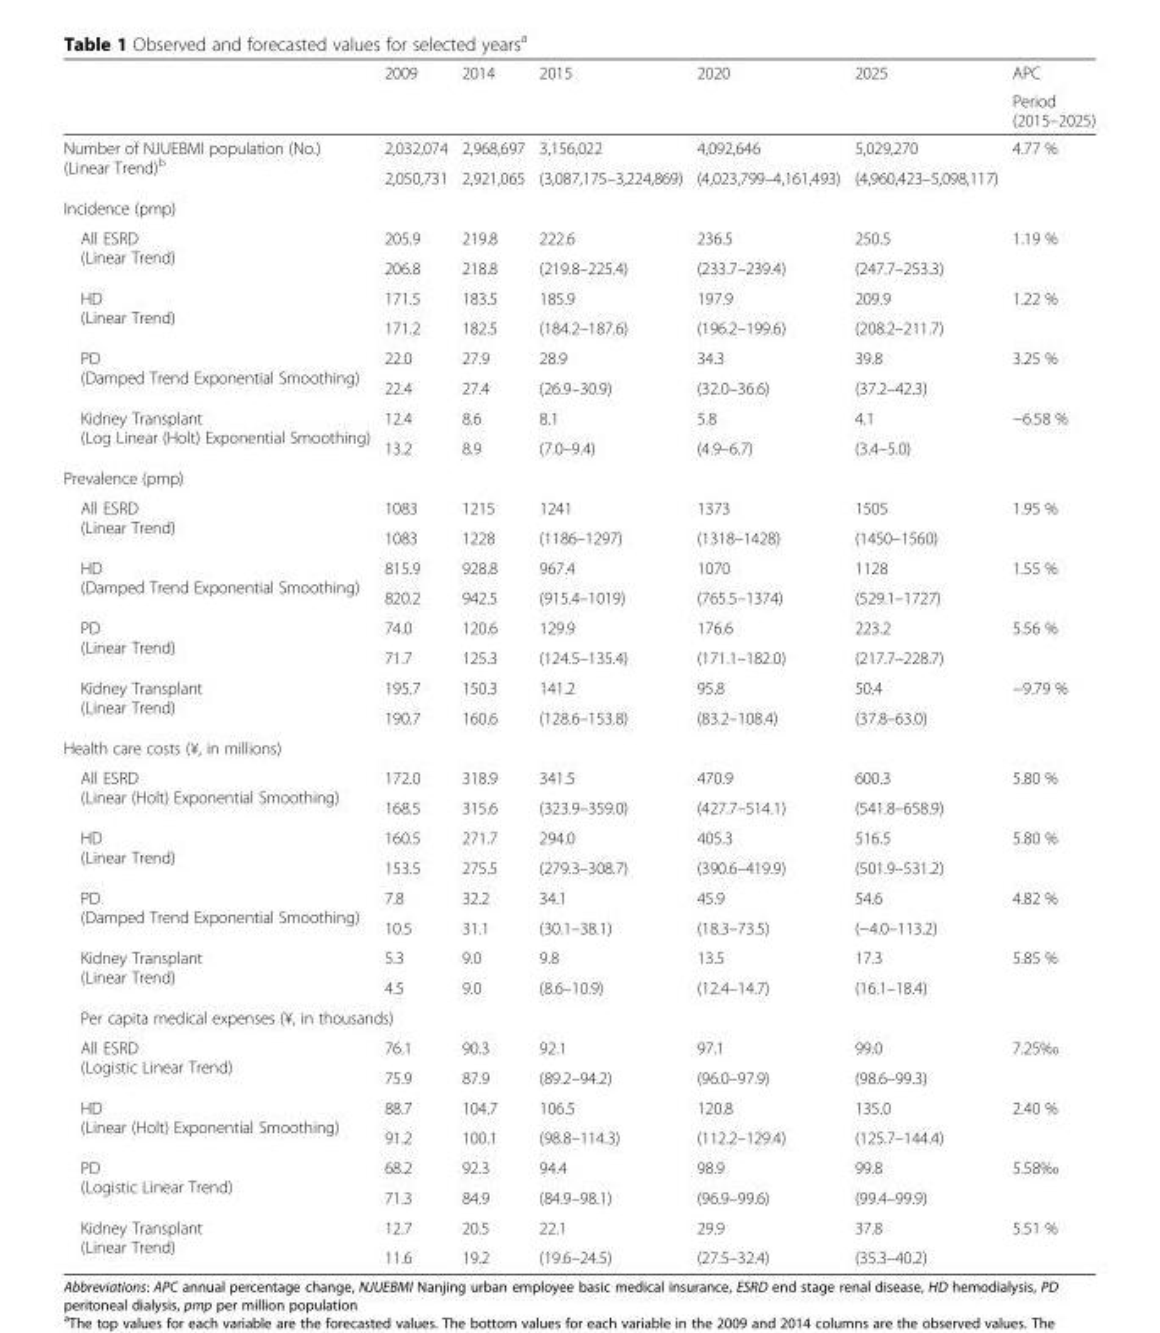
<table><thead><tr><td rowspan="2"></td><td rowspan="2">2009</td><td rowspan="2">2014</td><td rowspan="2">2015</td><td rowspan="2">2020</td><td rowspan="2">2025</td><td rowspan="2">APC Period (2015–2025)</td></tr><tr></tr></thead><tbody><tr><td rowspan="2">Number of NJUEBMI population (No.) (Linear Trend)<sup>b</sup></td><td>2,032,074</td><td>2,968,697</td><td>3,156,022</td><td>4,092,646</td><td>5,029,270</td><td>4.77 %</td></tr><tr><td>2,050,731</td><td>2,921,065</td><td>(3,087,175–3,224,869)</td><td>(4,023,799–4,161,493)</td><td>(4,960,423–5,098,117)</td><td></td></tr><tr><td colspan="7">Incidence (pmp)</td></tr><tr><td rowspan="2">All ESRD (Linear Trend)</td><td>205.9</td><td>219.8</td><td>222.6</td><td>236.5</td><td>250.5</td><td>1.19 %</td></tr><tr><td>206.8</td><td>218.8</td><td>(219.8–225.4)</td><td>(233.7–239.4)</td><td>(247.7–253.3)</td><td></td></tr><tr><td rowspan="2">HD (Linear Trend)</td><td>171.5</td><td>183.5</td><td>185.9</td><td>197.9</td><td>209.9</td><td>1.22 %</td></tr><tr><td>171.2</td><td>182.5</td><td>(184.2–187.6)</td><td>(196.2–199.6)</td><td>(208.2–211.7)</td><td></td></tr><tr><td rowspan="2">PD (Damped Trend Exponential Smoothing)</td><td>22.0</td><td>27.9</td><td>28.9</td><td>34.3</td><td>39.8</td><td>3.25 %</td></tr><tr><td>22.4</td><td>27.4</td><td>(26.9–30.9)</td><td>(32.0–36.6)</td><td>(37.2–42.3)</td><td></td></tr><tr><td rowspan="2">Kidney Transplant (Log Linear (Holt) Exponential Smoothing)</td><td>12.4</td><td>8.6</td><td>8.1</td><td>5.8</td><td>4.1</td><td>−6.58 %</td></tr><tr><td>13.2</td><td>8.9</td><td>(7.0–9.4)</td><td>(4.9–6.7)</td><td>(3.4–5.0)</td><td></td></tr><tr><td colspan="7">Prevalence (pmp)</td></tr><tr><td rowspan="2">All ESRD (Linear Trend)</td><td>1083</td><td>1215</td><td>1241</td><td>1373</td><td>1505</td><td>1.95 %</td></tr><tr><td>1083</td><td>1228</td><td>(1186–1297)</td><td>(1318–1428)</td><td>(1450–1560)</td><td></td></tr><tr><td rowspan="2">HD (Damped Trend Exponential Smoothing)</td><td>815.9</td><td>928.8</td><td>967.4</td><td>1070</td><td>1128</td><td>1.55 %</td></tr><tr><td>820.2</td><td>942.5</td><td>(915.4–1019)</td><td>(765.5–1374)</td><td>(529.1–1727)</td><td></td></tr><tr><td rowspan="2">PD (Linear Trend)</td><td>74.0</td><td>120.6</td><td>129.9</td><td>176.6</td><td>223.2</td><td>5.56 %</td></tr><tr><td>71.7</td><td>125.3</td><td>(124.5–135.4)</td><td>(171.1–182.0)</td><td>(217.7–228.7)</td><td></td></tr><tr><td rowspan="2">Kidney Transplant (Linear Trend)</td><td>195.7</td><td>150.3</td><td>141.2</td><td>95.8</td><td>50.4</td><td>−9.79 %</td></tr><tr><td>190.7</td><td>160.6</td><td>(128.6–153.8)</td><td>(83.2–108.4)</td><td>(37.8–63.0)</td><td></td></tr><tr><td colspan="7">Health care costs (¥, in millions)</td></tr><tr><td rowspan="2">All ESRD (Linear (Holt) Exponential Smoothing)</td><td>172.0</td><td>318.9</td><td>341.5</td><td>470.9</td><td>600.3</td><td>5.80 %</td></tr><tr><td>168.5</td><td>315.6</td><td>(323.9–359.0)</td><td>(427.7–514.1)</td><td>(541.8–658.9)</td><td></td></tr><tr><td rowspan="2">HD (Linear Trend)</td><td>160.5</td><td>271.7</td><td>294.0</td><td>405.3</td><td>516.5</td><td>5.80 %</td></tr><tr><td>153.5</td><td>275.5</td><td>(279.3–308.7)</td><td>(390.6–419.9)</td><td>(501.9–531.2)</td><td></td></tr><tr><td rowspan="2">PD (Damped Trend Exponential Smoothing)</td><td>7.8</td><td>32.2</td><td>34.1</td><td>45.9</td><td>54.6</td><td>4.82 %</td></tr><tr><td>10.5</td><td>31.1</td><td>(30.1–38.1)</td><td>(18.3–73.5)</td><td>(−4.0–113.2)</td><td></td></tr><tr><td rowspan="2">Kidney Transplant (Linear Trend)</td><td>5.3</td><td>9.0</td><td>9.8</td><td>13.5</td><td>17.3</td><td>5.85 %</td></tr><tr><td>4.5</td><td>9.0</td><td>(8.6–10.9)</td><td>(12.4–14.7)</td><td>(16.1–18.4)</td><td></td></tr><tr><td colspan="7">Per capita medical expenses (¥, in thousands)</td></tr><tr><td rowspan="2">All ESRD (Logistic Linear Trend)</td><td>76.1</td><td>90.3</td><td>92.1</td><td>97.1</td><td>99.0</td><td>7.25‰</td></tr><tr><td>75.9</td><td>87.9</td><td>(89.2–94.2)</td><td>(96.0–97.9)</td><td>(98.6–99.3)</td><td></td></tr><tr><td rowspan="2">HD (Linear (Holt) Exponential Smoothing)</td><td>88.7</td><td>104.7</td><td>106.5</td><td>120.8</td><td>135.0</td><td>2.40 %</td></tr><tr><td>91.2</td><td>100.1</td><td>(98.8–114.3)</td><td>(112.2–129.4)</td><td>(125.7–144.4)</td><td></td></tr><tr><td rowspan="2">PD (Logistic Linear Trend)</td><td>68.2</td><td>92.3</td><td>94.4</td><td>98.9</td><td>99.8</td><td>5.58‰</td></tr><tr><td>71.3</td><td>84.9</td><td>(84.9–98.1)</td><td>(96.9–99.6)</td><td>(99.4–99.9)</td><td></td></tr><tr><td rowspan="2">Kidney Transplant (Linear Trend)</td><td>12.7</td><td>20.5</td><td>22.1</td><td>29.9</td><td>37.8</td><td>5.51 %</td></tr><tr><td>11.6</td><td>19.2</td><td>(19.6–24.5)</td><td>(27.5–32.4)</td><td>(35.3–40.2)</td><td></td></tr></tbody></table>